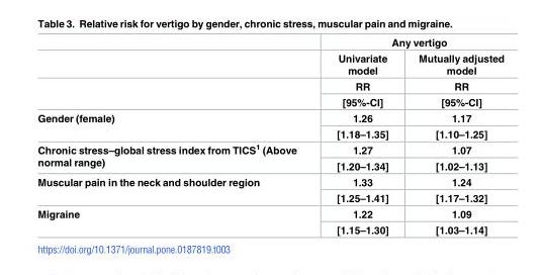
<table><thead><tr><td rowspan="4"></td><td colspan="2">Any vertigo</td></tr><tr><td rowspan="3">Univariate model RR [95%-CI]</td><td rowspan="3">Mutually adjusted model RR [95%-CI]</td></tr><tr></tr><tr></tr></thead><tbody><tr><td rowspan="2">Gender (female)</td><td>1.26</td><td>1.17</td></tr><tr><td>[1.18–1.35]</td><td>[1.10–1.25]</td></tr><tr><td rowspan="2">Chronic stress–global stress index from TICS<sup>1</sup> (Above normal range)</td><td>1.27</td><td>1.07</td></tr><tr><td>[1.20–1.34]</td><td>[1.02–1.13]</td></tr><tr><td rowspan="2">Muscular pain in the neck and shoulder region</td><td>1.33</td><td>1.24</td></tr><tr><td>[1.25–1.41]</td><td>[1.17–1.32]</td></tr><tr><td rowspan="2">Migraine</td><td>1.22</td><td>1.09</td></tr><tr><td>[1.15–1.30]</td><td>[1.03–1.14]</td></tr></tbody></table>